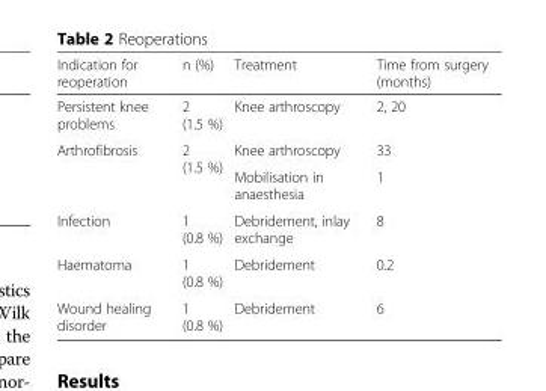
<table><thead><tr><td>Indication for reoperation</td><td>n (%)</td><td>Treatment</td><td>Time from surgery (months)</td></tr></thead><tbody><tr><td>Persistent knee problems</td><td>2 (1.5 %)</td><td>Knee arthroscopy</td><td>2, 20</td></tr><tr><td rowspan="2">Arthrofibrosis</td><td rowspan="2">2 (1.5 %)</td><td>Knee arthroscopy</td><td>33</td></tr><tr><td>Mobilisation in anaesthesia</td><td>1</td></tr><tr><td>Infection</td><td>1 (0.8 %)</td><td>Debridement, inlay exchange</td><td>8</td></tr><tr><td>Haematoma</td><td>1 (0.8 %)</td><td>Debridement</td><td>0.2</td></tr><tr><td>Wound healing disorder</td><td>1 (0.8 %)</td><td>Debridement</td><td>6</td></tr></tbody></table>